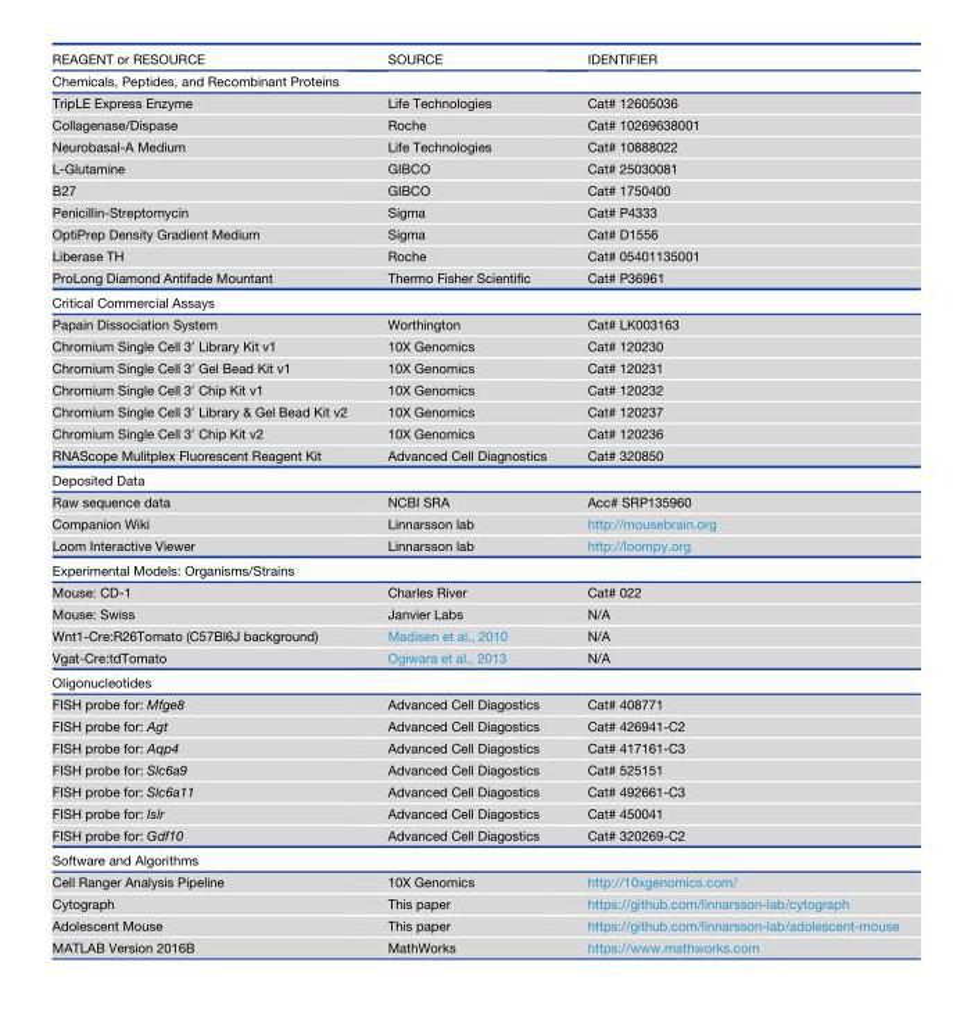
<table><thead><tr><td>REAGENT or RESOURCE</td><td>SOURCE</td><td>IDENTIFIER</td></tr></thead><tbody><tr><td colspan="3">Chemicals, Peptides, and Recombinant Proteins</td></tr><tr><td>TripLE Express Enzyme</td><td>Life Technologies</td><td>Cat# 12605036</td></tr><tr><td>Collagenase/Dispase</td><td>Roche</td><td>Cat# 10269638001</td></tr><tr><td>Neurobasal-A Medium</td><td>Life Technologies</td><td>Cat# 10888022</td></tr><tr><td>L-Glutamine</td><td>GIBCO</td><td>Cat# 25030081</td></tr><tr><td>B27</td><td>GIBCO</td><td>Cat# 1750400</td></tr><tr><td>Penicillin-Streptomycin</td><td>Sigma</td><td>Cat# P4333</td></tr><tr><td>OptiPrep Density Gradient Medium</td><td>Sigma</td><td>Cat# D1556</td></tr><tr><td>Liberase TH</td><td>Roche</td><td>Cat# 05401135001</td></tr><tr><td>ProLong Diamond Antifade Mountant</td><td>Thermo Fisher Scientific</td><td>Cat# P36961</td></tr><tr><td colspan="3">Critical Commercial Assays</td></tr><tr><td>Papain Dissociation System</td><td>Worthington</td><td>Cat# LK003163</td></tr><tr><td>Chromium Single Cell 3′ Library Kit v1</td><td>10X Genomics</td><td>Cat# 120230</td></tr><tr><td>Chromium Single Cell 3′ Gel Bead Kit v1</td><td>10X Genomics</td><td>Cat# 120231</td></tr><tr><td>Chromium Single Cell 3′ Chip Kit v1</td><td>10X Genomics</td><td>Cat# 120232</td></tr><tr><td>Chromium Single Cell 3′ Library &amp; Gel Bead Kit v2</td><td>10X Genomics</td><td>Cat# 120237</td></tr><tr><td>Chromium Single Cell 3′ Chip Kit v2</td><td>10X Genomics</td><td>Cat# 120236</td></tr><tr><td>RNAScope Mulitplex Fluorescent Reagent Kit</td><td>Advanced Cell Diagnostics</td><td>Cat# 320850</td></tr><tr><td colspan="3">Deposited Data</td></tr><tr><td>Raw sequence data</td><td>NCBI SRA</td><td>Acc# SRP135960</td></tr><tr><td>Companion Wiki</td><td>Linnarsson lab</td><td>http://mousebrain.org</td></tr><tr><td>Loom Interactive Viewer</td><td>Linnarsson lab</td><td>http://loompy.org</td></tr><tr><td colspan="3">Experimental Models: Organisms/Strains</td></tr><tr><td>Mouse: CD-1</td><td>Charles River</td><td>Cat# 022</td></tr><tr><td>Mouse: Swiss</td><td>Janvier Labs</td><td>N/A</td></tr><tr><td>Wnt1-Cre:R26Tomato (C57Bl6J background)</td><td>Madisen et al., 2010</td><td>N/A</td></tr><tr><td>Vgat-Cre:tdTomato</td><td>Ogiwara et al., 2013</td><td>N/A</td></tr><tr><td colspan="3">Oligonucleotides</td></tr><tr><td>FISH probe for: Mfge8</td><td>Advanced Cell Diagostics</td><td>Cat# 408771</td></tr><tr><td>FISH probe for: Agt</td><td>Advanced Cell Diagostics</td><td>Cat# 426941-C2</td></tr><tr><td>FISH probe for: Aqp4</td><td>Advanced Cell Diagostics</td><td>Cat# 417161-C3</td></tr><tr><td>FISH probe for: Slc6a9</td><td>Advanced Cell Diagostics</td><td>Cat# 525151</td></tr><tr><td>FISH probe for: Slc6a11</td><td>Advanced Cell Diagostics</td><td>Cat# 492661-C3</td></tr><tr><td>FISH probe for: Islr</td><td>Advanced Cell Diagostics</td><td>Cat# 450041</td></tr><tr><td>FISH probe for: Gdf10</td><td>Advanced Cell Diagostics</td><td>Cat# 320269-C2</td></tr><tr><td colspan="3">Software and Algorithms</td></tr><tr><td>Cell Ranger Analysis Pipeline</td><td>10X Genomics</td><td>http://10xgenomics.com/</td></tr><tr><td>Cytograph</td><td>This paper</td><td>https://github.com/linnarsson-lab/cytograph</td></tr><tr><td>Adolescent Mouse</td><td>This paper</td><td>https://github.com/linnarsson-lab/adolescent-mouse</td></tr><tr><td>MATLAB Version 2016B</td><td>MathWorks</td><td>https://www.mathworks.com</td></tr></tbody></table>